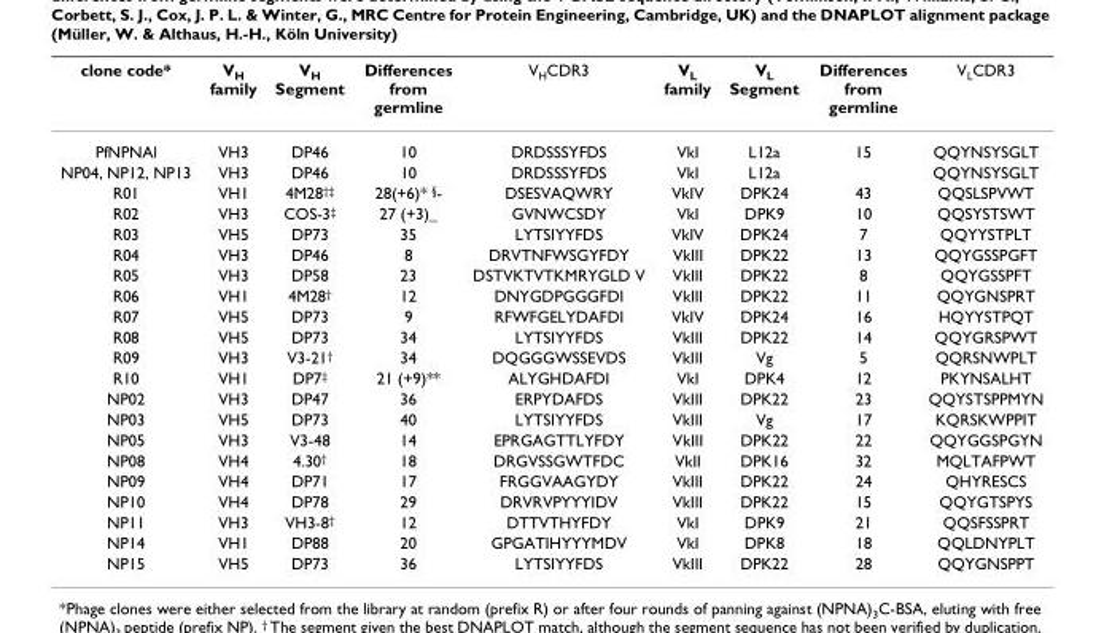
<table><thead><tr><td>clone code*</td><td>V<sub>H</sub> family</td><td>V<sub>H</sub> Segment</td><td>Differences from germline</td><td>V<sub>H</sub>CDR3</td><td>V<sub>L</sub> family</td><td>V<sub>L</sub> Segment</td><td>Differences from germline</td><td>V<sub>L</sub>CDR3</td></tr></thead><tbody><tr><td>PfNPNAl</td><td>VH3</td><td>DP46</td><td>10</td><td>DRDSSSYFDS</td><td>VkI</td><td>L12a</td><td>15</td><td>QQYNSYSGLT</td></tr><tr><td>NP04, NP12, NP13</td><td>VH3</td><td>DP46</td><td>10</td><td>DRDSSSYFDS</td><td>VkI</td><td>L12a</td><td></td><td>QQYNSYSGLT</td></tr><tr><td>R01</td><td>VH1</td><td>4M28<sup>†‡</sup></td><td>28(+6)* <sup>§</sup>-</td><td>DSESVAQWRY</td><td>VkIV</td><td>DPK24</td><td>43</td><td>QQSLSPVWT</td></tr><tr><td>R02</td><td>VH3</td><td>COS-3<sup>‡</sup></td><td>27 (+3)_</td><td>GVNWCSDY</td><td>VkI</td><td>DPK9</td><td>10</td><td>QQSYSTSWT</td></tr><tr><td>R03</td><td>VH5</td><td>DP73</td><td>35</td><td>LYTSIYYFDS</td><td>VkIV</td><td>DPK24</td><td>7</td><td>QQYYSTPLT</td></tr><tr><td>R04</td><td>VH3</td><td>DP46</td><td>8</td><td>DRVTNFWSGYFDY</td><td>VkIII</td><td>DPK22</td><td>13</td><td>QQYGSSPGFT</td></tr><tr><td>R05</td><td>VH3</td><td>DP58</td><td>23</td><td>DSTVKTVTKMRYGLD V</td><td>VkIII</td><td>DPK22</td><td>8</td><td>QQYGSSPFT</td></tr><tr><td>R06</td><td>VH1</td><td>4M28<sup>†</sup></td><td>12</td><td>DNYGDPGGGFDI</td><td>VkIII</td><td>DPK22</td><td>11</td><td>QQYGNSPRT</td></tr><tr><td>R07</td><td>VH5</td><td>DP73</td><td>9</td><td>RFWFGELYDAFDI</td><td>VkIV</td><td>DPK24</td><td>16</td><td>HQYYSTPQT</td></tr><tr><td>R08</td><td>VH5</td><td>DP73</td><td>34</td><td>LYTSIYYFDS</td><td>VkIII</td><td>DPK22</td><td>14</td><td>QQYGRSPWT</td></tr><tr><td>R09</td><td>VH3</td><td>V3-21<sup>†</sup></td><td>34</td><td>DQGGGWSSEVDS</td><td>VkIII</td><td>Vg</td><td>5</td><td>QQRSNWPLT</td></tr><tr><td>R10</td><td>VH1</td><td>DP7<sup>‡</sup></td><td>21 (+9)**</td><td>ALYGHDAFDI</td><td>VkI</td><td>DPK4</td><td>12</td><td>PKYNSALHT</td></tr><tr><td>NP02</td><td>VH3</td><td>DP47</td><td>36</td><td>ERPYDAFDS</td><td>VkIII</td><td>DPK22</td><td>23</td><td>QQYSTSPPMYN</td></tr><tr><td>NP03</td><td>VH5</td><td>DP73</td><td>40</td><td>LYTSIYYFDS</td><td>VkIII</td><td>Vg</td><td>17</td><td>KQRSKWPPIT</td></tr><tr><td>NP05</td><td>VH3</td><td>V3-48</td><td>14</td><td>EPRGAGTTLYFDY</td><td>VkIII</td><td>DPK22</td><td>22</td><td>QQYGGSPGYN</td></tr><tr><td>NP08</td><td>VH4</td><td>4.30<sup>†</sup></td><td>18</td><td>DRGVSSGWTFDC</td><td>VkII</td><td>DPK16</td><td>32</td><td>MQLTAFPWT</td></tr><tr><td>NP09</td><td>VH4</td><td>DP71</td><td>17</td><td>FRGGVAAGYDY</td><td>VkIII</td><td>DPK22</td><td>24</td><td>QHYRESCS</td></tr><tr><td>NP10</td><td>VH4</td><td>DP78</td><td>29</td><td>DRVRVPYYYIDV</td><td>VkIII</td><td>DPK22</td><td>15</td><td>QQYGTSPYS</td></tr><tr><td>NP11</td><td>VH3</td><td>VH3-8<sup>†</sup></td><td>12</td><td>DTTVTHYFDY</td><td>VkI</td><td>DPK9</td><td>21</td><td>QQSFSSPRT</td></tr><tr><td>NP14</td><td>VH1</td><td>DP88</td><td>20</td><td>GPGATIHYYYMDV</td><td>VkI</td><td>DPK8</td><td>18</td><td>QQLDNYPLT</td></tr><tr><td>NP15</td><td>VH5</td><td>DP73</td><td>36</td><td>LYTSIYYFDS</td><td>VkIII</td><td>DPK22</td><td>28</td><td>QQYGNSPPT</td></tr></tbody></table>